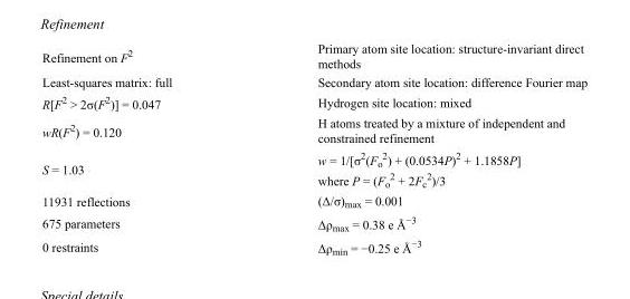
<table><tbody><tr><td>Refinement on F<sup>2</sup></td><td>Primary atom site location: structure-invariant direct methods</td></tr><tr><td>Least-squares matrix: full</td><td>Secondary atom site location: difference Fourier map</td></tr><tr><td>R[F<sup>2</sup> &gt; 2σ(F<sup>2</sup>)] = 0.047</td><td>Hydrogen site location: mixed</td></tr><tr><td>wR(F<sup>2</sup>) = 0.120</td><td>H atoms treated by a mixture of independent and constrained refinement</td></tr><tr><td>S = 1.03</td><td>w = 1/[σ<sup>2</sup>(F<sub>o</sub> <sup>2</sup>) + (0.0534P)<sup>2</sup> + 1.1858P] where P = (F<sub>o</sub> <sup>2</sup> + 2F<sub>c</sub> <sup>2</sup>)/3</td></tr><tr><td>11931 reflections</td><td>(Δ/σ)<sub>max</sub> = 0.001</td></tr><tr><td>675 parameters</td><td>Δρ<sub>max</sub> = 0.38 e Å<sup>−3</sup></td></tr><tr><td>0 restraints</td><td>Δρ<sub>min</sub> = −0.25 e Å<sup>−3</sup></td></tr></tbody></table>